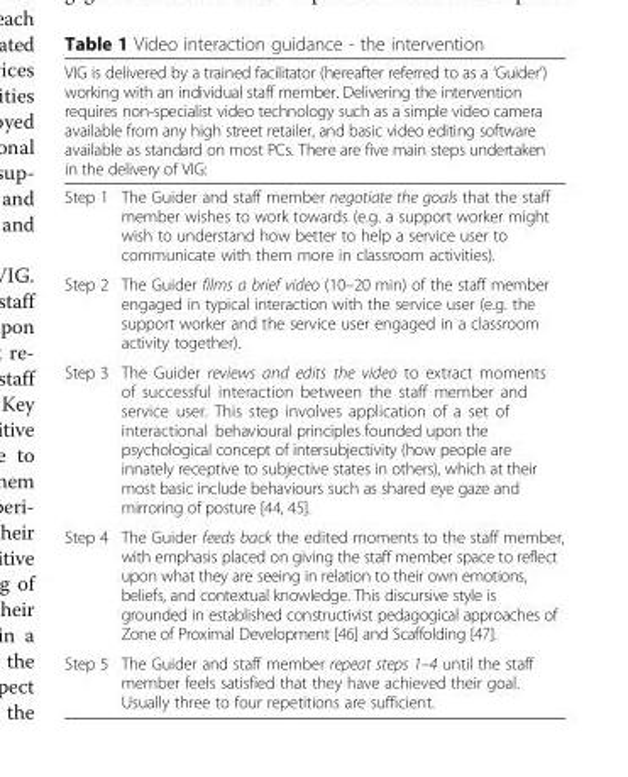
<table><thead><tr><td colspan="2">VIG is delivered by a trained facilitator (hereafter referred to as a ‘Guider’) working with an individual staff member. Delivering the intervention requires non-specialist video technology such as a simple video camera available from any high street retailer, and basic video editing software available as standard on most PCs. There are five main steps undertaken in the delivery of VIG:</td></tr><tr><td>Step 1</td><td>The Guider and staff member negotiate the goals that the staff member wishes to work towards (e.g. a support worker might wish to understand how better to help a service user to communicate with them more in classroom activities).</td></tr></thead><tbody><tr><td>Step 2</td><td>The Guider films a brief video (10–20 min) of the staff member engaged in typical interaction with the service user (e.g. the support worker and the service user engaged in a classroom activity together).</td></tr><tr><td>Step 3</td><td>The Guider reviews and edits the video to extract moments of successful interaction between the staff member and service user. This step involves application of a set of interactional behavioural principles founded upon the psychological concept of intersubjectivity (how people are innately receptive to subjective states in others), which at their most basic include behaviours such as shared eye gaze and mirroring of posture [44, 45].</td></tr><tr><td>Step 4</td><td>The Guider feeds back the edited moments to the staff member, with emphasis placed on giving the staff member space to reflect upon what they are seeing in relation to their own emotions, beliefs, and contextual knowledge. This discursive style is grounded in established constructivist pedagogical approaches of Zone of Proximal Development [46] and Scaffolding [47].</td></tr><tr><td>Step 5</td><td>The Guider and staff member repeat steps 1–4 until the staff member feels satisfied that they have achieved their goal. Usually three to four repetitions are sufficient.</td></tr></tbody></table>